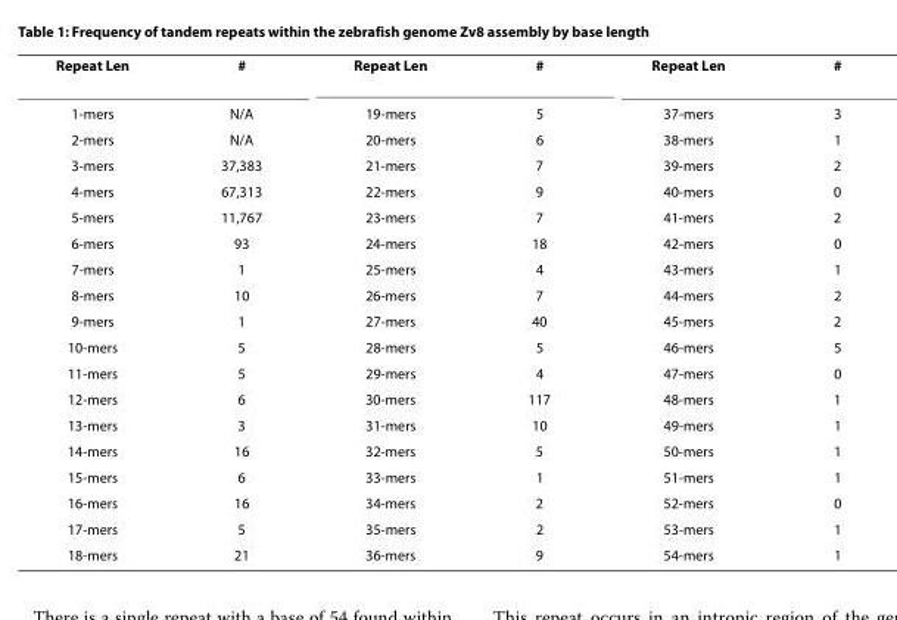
<table><tbody><tr><td>Repeat Len</td><td>#</td><td>Repeat Len</td><td>#</td><td>Repeat Len</td><td>#</td></tr><tr><td>1-mers</td><td>N/A</td><td>19-mers</td><td>5</td><td>37-mers</td><td>3</td></tr><tr><td>2-mers</td><td>N/A</td><td>20-mers</td><td>6</td><td>38-mers</td><td>1</td></tr><tr><td>3-mers</td><td>37,383</td><td>21-mers</td><td>7</td><td>39-mers</td><td>2</td></tr><tr><td>4-mers</td><td>67,313</td><td>22-mers</td><td>9</td><td>40-mers</td><td>0</td></tr><tr><td>5-mers</td><td>11,767</td><td>23-mers</td><td>7</td><td>41-mers</td><td>2</td></tr><tr><td>6-mers</td><td>93</td><td>24-mers</td><td>18</td><td>42-mers</td><td>0</td></tr><tr><td>7-mers</td><td>1</td><td>25-mers</td><td>4</td><td>43-mers</td><td>1</td></tr><tr><td>8-mers</td><td>10</td><td>26-mers</td><td>7</td><td>44-mers</td><td>2</td></tr><tr><td>9-mers</td><td>1</td><td>27-mers</td><td>40</td><td>45-mers</td><td>2</td></tr><tr><td>10-mers</td><td>5</td><td>28-mers</td><td>5</td><td>46-mers</td><td>5</td></tr><tr><td>11-mers</td><td>5</td><td>29-mers</td><td>4</td><td>47-mers</td><td>0</td></tr><tr><td>12-mers</td><td>6</td><td>30-mers</td><td>117</td><td>48-mers</td><td>1</td></tr><tr><td>13-mers</td><td>3</td><td>31-mers</td><td>10</td><td>49-mers</td><td>1</td></tr><tr><td>14-mers</td><td>16</td><td>32-mers</td><td>5</td><td>50-mers</td><td>1</td></tr><tr><td>15-mers</td><td>6</td><td>33-mers</td><td>1</td><td>51-mers</td><td>1</td></tr><tr><td>16-mers</td><td>16</td><td>34-mers</td><td>2</td><td>52-mers</td><td>0</td></tr><tr><td>17-mers</td><td>5</td><td>35-mers</td><td>2</td><td>53-mers</td><td>1</td></tr><tr><td>18-mers</td><td>21</td><td>36-mers</td><td>9</td><td>54-mers</td><td>1</td></tr></tbody></table>